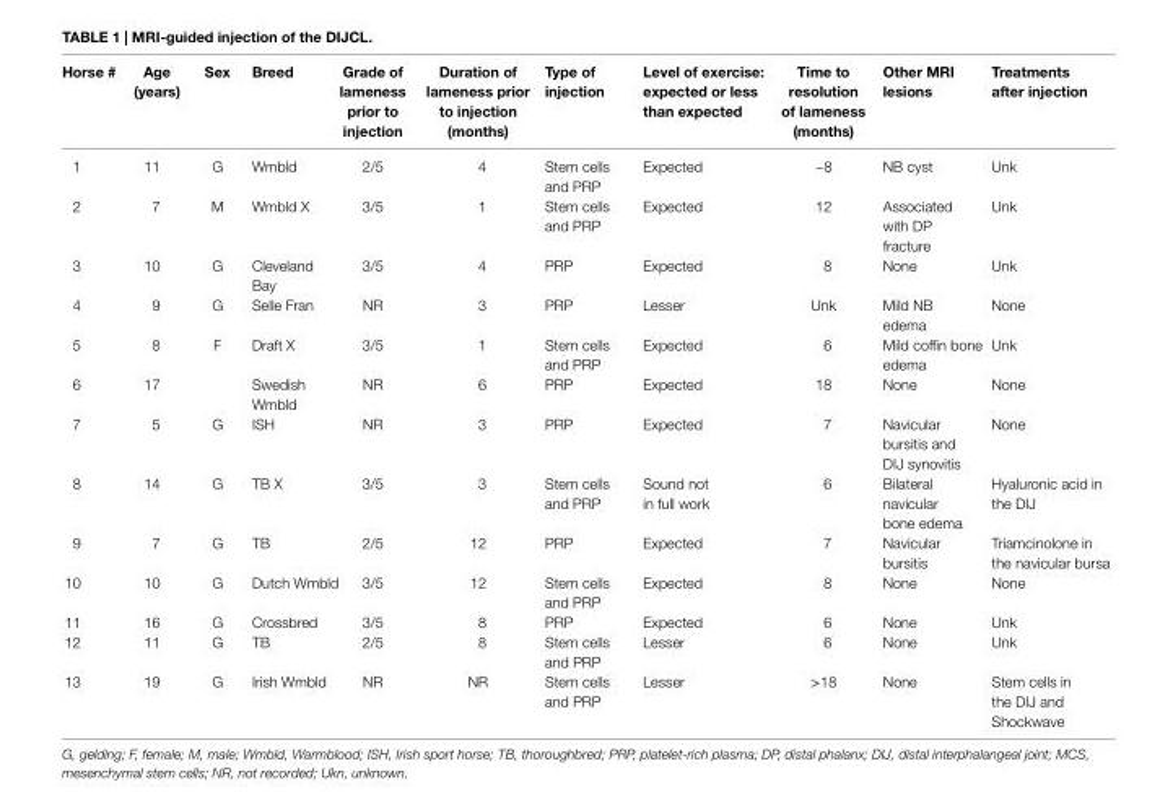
<table><thead><tr><td>horse #</td><td>age (years)</td><td>sex</td><td>Breed</td><td>grade of lameness prior to injection</td><td>Duration of lameness prior to injection (months)</td><td>Type of injection</td><td>level of exercise: expected or less than expected</td><td>Time to resolution of lameness (months)</td><td>Other Mri lesions</td><td>Treatments after injection</td></tr></thead><tbody><tr><td>1</td><td>11</td><td>G</td><td>Wmbld</td><td>2/5</td><td>4</td><td>Stem cells and PRP</td><td>Expected</td><td>~8</td><td>NB cyst</td><td>Unk</td></tr><tr><td>2</td><td>7</td><td>M</td><td>Wmbld X</td><td>3/5</td><td>1</td><td>Stem cells and PRP</td><td>Expected</td><td>12</td><td>Associated with DP fracture</td><td>Unk</td></tr><tr><td>3</td><td>10</td><td>G</td><td>Cleveland Bay</td><td>3/5</td><td>4</td><td>PRP</td><td>Expected</td><td>8</td><td>None</td><td>Unk</td></tr><tr><td>4</td><td>9</td><td>G</td><td>Selle Fran</td><td>NR</td><td>3</td><td>PRP</td><td>Lesser</td><td>Unk</td><td>Mild NB edema</td><td>None</td></tr><tr><td>5</td><td>8</td><td>F</td><td>Draft X</td><td>3/5</td><td>1</td><td>Stem cells and PRP</td><td>Expected</td><td>6</td><td>Mild coffin bone edema</td><td>Unk</td></tr><tr><td>6</td><td>17</td><td></td><td>Swedish Wmbld</td><td>NR</td><td>6</td><td>PRP</td><td>Expected</td><td>18</td><td>None</td><td>None</td></tr><tr><td>7</td><td>5</td><td>G</td><td>ISH</td><td>NR</td><td>3</td><td>PRP</td><td>Expected</td><td>7</td><td>Navicular bursitis and DIJ synovitis</td><td>None</td></tr><tr><td>8</td><td>14</td><td>G</td><td>TB X</td><td>3/5</td><td>3</td><td>Stem cells and PRP</td><td>Sound not in full work</td><td>6</td><td>Bilateral navicular bone edema</td><td>Hyaluronic acid in the DIJ</td></tr><tr><td>9</td><td>7</td><td>G</td><td>TB</td><td>2/5</td><td>12</td><td>PRP</td><td>Expected</td><td>7</td><td>Navicular bursitis</td><td>Triamcinolone in the navicular bursa</td></tr><tr><td>10</td><td>10</td><td>G</td><td>Dutch Wmbld</td><td>3/5</td><td>12</td><td>Stem cells and PRP</td><td>Expected</td><td>8</td><td>None</td><td>None</td></tr><tr><td>11</td><td>16</td><td>G</td><td>Crossbred</td><td>3/5</td><td>8</td><td>PRP</td><td>Expected</td><td>6</td><td>None</td><td>Unk</td></tr><tr><td>12</td><td>11</td><td>G</td><td>TB</td><td>2/5</td><td>8</td><td>Stem cells and PRP</td><td>Lesser</td><td>6</td><td>None</td><td>Unk</td></tr><tr><td>13</td><td>19</td><td>G</td><td>Irish Wmbld</td><td>NR</td><td>NR</td><td>Stem cells and PRP</td><td>Lesser</td><td>&gt;18</td><td>None</td><td>Stem cells in the DIJ and Shockwave</td></tr></tbody></table>